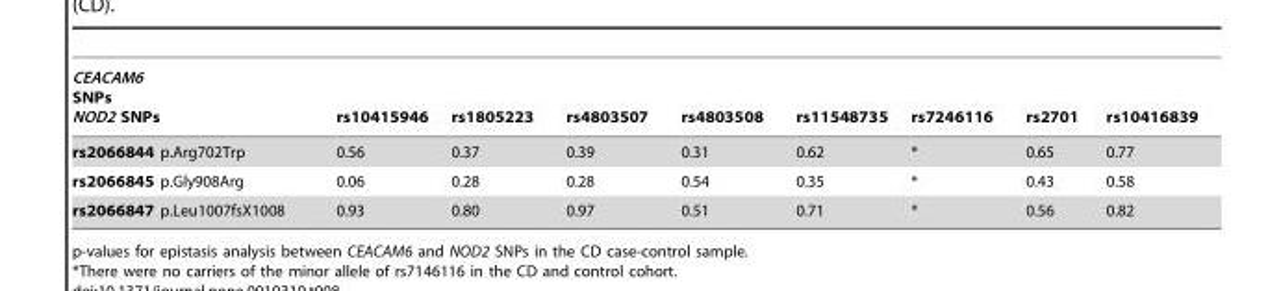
<table><thead><tr><td>CEACAM6 SNPs NOD2 SNPs</td><td>rs10415946</td><td>rs1805223</td><td>rs4803507</td><td>rs4803508</td><td>rs11548735</td><td>rs7246116</td><td>rs2701</td><td>rs10416839</td></tr></thead><tbody><tr><td>rs2066844 p.Arg702Trp</td><td>0.56</td><td>0.37</td><td>0.39</td><td>0.31</td><td>0.62</td><td>*</td><td>0.65</td><td>0.77</td></tr><tr><td>rs2066845 p.Gly908Arg</td><td>0.06</td><td>0.28</td><td>0.28</td><td>0.54</td><td>0.35</td><td>*</td><td>0.43</td><td>0.58</td></tr><tr><td>rs2066847 p.Leu1007fsX1008</td><td>0.93</td><td>0.80</td><td>0.97</td><td>0.51</td><td>0.71</td><td>*</td><td>0.56</td><td>0.82</td></tr></tbody></table>